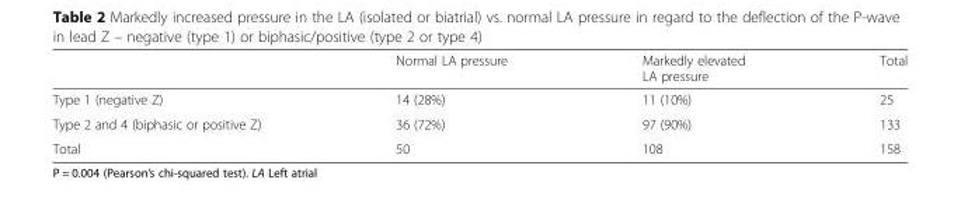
<table><thead><tr><td></td><td>Normal LA pressure</td><td>Markedly elevated LA pressure</td><td>Total</td></tr></thead><tbody><tr><td>Type 1 (negative Z)</td><td>14 (28%)</td><td>11 (10%)</td><td>25</td></tr><tr><td>Type 2 and 4 (biphasic or positive Z)</td><td>36 (72%)</td><td>97 (90%)</td><td>133</td></tr><tr><td>Total</td><td>50</td><td>108</td><td>158</td></tr></tbody></table>